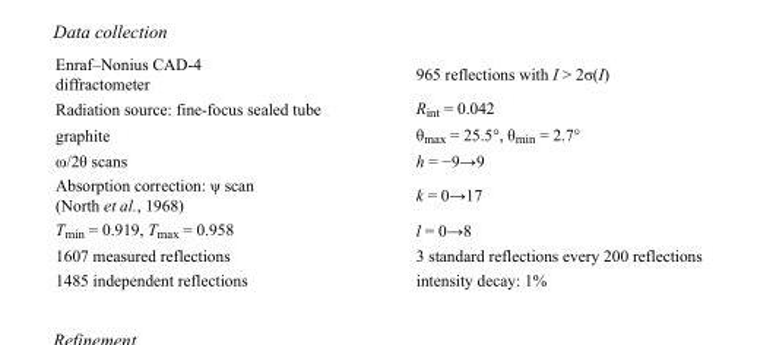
<table><tbody><tr><td>Enraf–Nonius CAD-4 diffractometer</td><td>965 reflections with I &gt; 2σ(I)</td></tr><tr><td>Radiation source: fine-focus sealed tube</td><td>R<sub>int</sub> = 0.042</td></tr><tr><td>graphite</td><td>θ<sub>max</sub> = 25.5°, θ<sub>min</sub> = 2.7°</td></tr><tr><td>ω/2θ scans</td><td>h = −9→9</td></tr><tr><td>Absorption correction: ψ scan (North et al., 1968)</td><td>k = 0→17</td></tr><tr><td>T<sub>min</sub> = 0.919, T<sub>max</sub> = 0.958</td><td>l = 0→8</td></tr><tr><td>1607 measured reflections</td><td>3 standard reflections every 200 reflections</td></tr><tr><td>1485 independent reflections</td><td>intensity decay: 1%</td></tr></tbody></table>